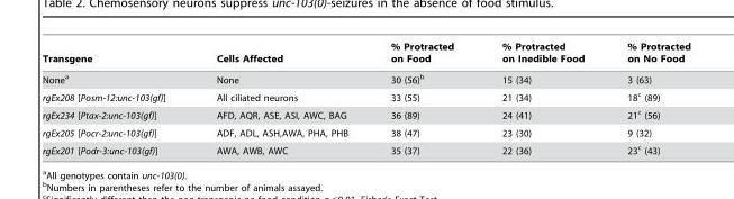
<table><thead><tr><td>Transgene</td><td>Cells Affected</td><td>% Protracted on Food</td><td>% Protracted on Inedible Food</td><td>% Protracted on No Food</td></tr></thead><tbody><tr><td>None<sup>a</sup></td><td>None</td><td>30 (56)<sup>b</sup></td><td>15 (34)</td><td>3 (63)</td></tr><tr><td>rgEx208 [Posm-12:unc-103(gf)]</td><td>All ciliated neurons</td><td>33 (55)</td><td>21 (34)</td><td>18<sup>c</sup> (89)</td></tr><tr><td>rgEx234 [Ptax-2:unc-103(gf)]</td><td>AFD, AQR, ASE, ASI, AWC, BAG</td><td>36 (89)</td><td>24 (41)</td><td>21<sup>c</sup> (56)</td></tr><tr><td>rgEx205 [Pocr-2:unc-103(gf)]</td><td>ADF, ADL, ASH,AWA, PHA, PHB</td><td>38 (47)</td><td>23 (30)</td><td>9 (32)</td></tr><tr><td>rgEx201 [Podr-3:unc-103(gf)]</td><td>AWA, AWB, AWC</td><td>35 (37)</td><td>22 (36)</td><td>23<sup>c</sup> (43)</td></tr></tbody></table>